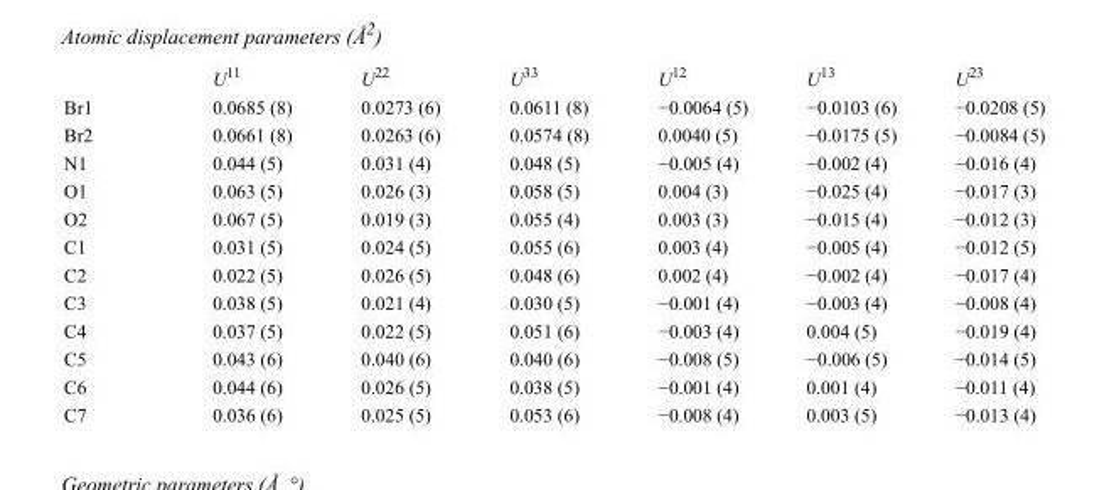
<table><thead><tr><td></td><td>U<sup>11</sup></td><td>U<sup>22</sup></td><td>U<sup>33</sup></td><td>U<sup>12</sup></td><td>U<sup>13</sup></td><td>U<sup>23</sup></td></tr></thead><tbody><tr><td>Br1</td><td>0.0685 (8)</td><td>0.0273 (6)</td><td>0.0611 (8)</td><td>−0.0064 (5)</td><td>−0.0103 (6)</td><td>−0.0208 (5)</td></tr><tr><td>Br2</td><td>0.0661 (8)</td><td>0.0263 (6)</td><td>0.0574 (8)</td><td>0.0040 (5)</td><td>−0.0175 (5)</td><td>−0.0084 (5)</td></tr><tr><td>N1</td><td>0.044 (5)</td><td>0.031 (4)</td><td>0.048 (5)</td><td>−0.005 (4)</td><td>−0.002 (4)</td><td>−0.016 (4)</td></tr><tr><td>O1</td><td>0.063 (5)</td><td>0.026 (3)</td><td>0.058 (5)</td><td>0.004 (3)</td><td>−0.025 (4)</td><td>−0.017 (3)</td></tr><tr><td>O2</td><td>0.067 (5)</td><td>0.019 (3)</td><td>0.055 (4)</td><td>0.003 (3)</td><td>−0.015 (4)</td><td>−0.012 (3)</td></tr><tr><td>C1</td><td>0.031 (5)</td><td>0.024 (5)</td><td>0.055 (6)</td><td>0.003 (4)</td><td>−0.005 (4)</td><td>−0.012 (5)</td></tr><tr><td>C2</td><td>0.022 (5)</td><td>0.026 (5)</td><td>0.048 (6)</td><td>0.002 (4)</td><td>−0.002 (4)</td><td>−0.017 (4)</td></tr><tr><td>C3</td><td>0.038 (5)</td><td>0.021 (4)</td><td>0.030 (5)</td><td>−0.001 (4)</td><td>−0.003 (4)</td><td>−0.008 (4)</td></tr><tr><td>C4</td><td>0.037 (5)</td><td>0.022 (5)</td><td>0.051 (6)</td><td>−0.003 (4)</td><td>0.004 (5)</td><td>−0.019 (4)</td></tr><tr><td>C5</td><td>0.043 (6)</td><td>0.040 (6)</td><td>0.040 (6)</td><td>−0.008 (5)</td><td>−0.006 (5)</td><td>−0.014 (5)</td></tr><tr><td>C6</td><td>0.044 (6)</td><td>0.026 (5)</td><td>0.038 (5)</td><td>−0.001 (4)</td><td>0.001 (4)</td><td>−0.011 (4)</td></tr><tr><td>C7</td><td>0.036 (6)</td><td>0.025 (5)</td><td>0.053 (6)</td><td>−0.008 (4)</td><td>0.003 (5)</td><td>−0.013 (4)</td></tr></tbody></table>